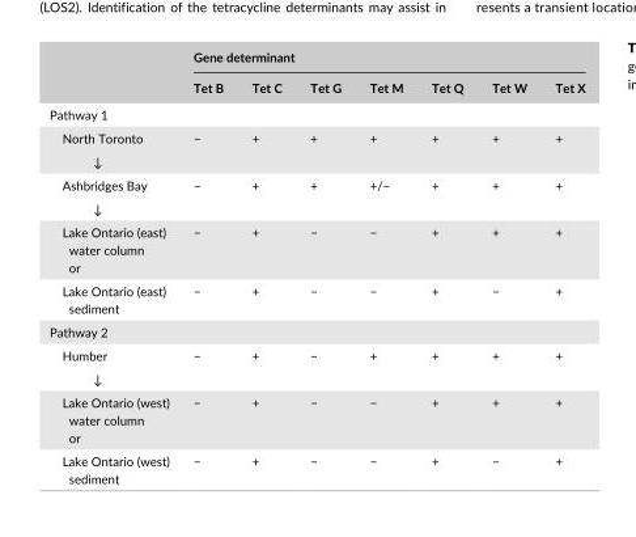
<table><thead><tr><td rowspan="2"></td><td colspan="7">Gene determinant</td></tr><tr><td>Tet B</td><td>Tet C</td><td>Tet G</td><td>Tet M</td><td>Tet Q</td><td>Tet W</td><td>Tet X</td></tr></thead><tbody><tr><td colspan="8">Pathway 1</td></tr><tr><td>North Toronto</td><td rowspan="2">−</td><td rowspan="2">+</td><td rowspan="2">+</td><td rowspan="2">+</td><td rowspan="2">+</td><td rowspan="2">+</td><td rowspan="2">+</td></tr><tr><td>↓</td></tr><tr><td>Ashbridges Bay</td><td rowspan="2">−</td><td rowspan="2">+</td><td rowspan="2">+</td><td rowspan="2">+/−</td><td rowspan="2">+</td><td rowspan="2">+</td><td rowspan="2">+</td></tr><tr><td>↓</td></tr><tr><td>Lake Ontario (east) water column or</td><td>−</td><td>+</td><td>−</td><td>−</td><td>+</td><td>+</td><td>+</td></tr><tr><td>Lake Ontario (east) sediment</td><td>−</td><td>+</td><td>−</td><td>−</td><td>+</td><td>−</td><td>+</td></tr><tr><td colspan="8">Pathway 2</td></tr><tr><td>Humber</td><td rowspan="2">−</td><td rowspan="2">+</td><td rowspan="2">−</td><td rowspan="2">+</td><td rowspan="2">+</td><td rowspan="2">+</td><td rowspan="2">+</td></tr><tr><td>↓</td></tr><tr><td>Lake Ontario (west) water column or</td><td>−</td><td>+</td><td>−</td><td>−</td><td>+</td><td>+</td><td>+</td></tr><tr><td>Lake Ontario (west) sediment</td><td>−</td><td>+</td><td>−</td><td>−</td><td>+</td><td>−</td><td>+</td></tr></tbody></table>